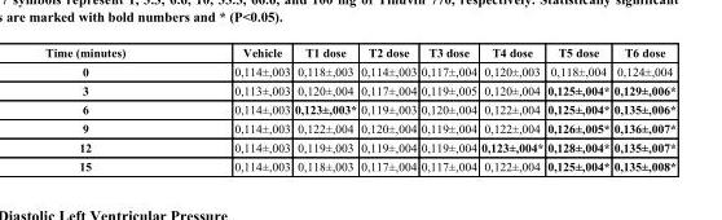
<table><thead><tr><td>Time (minutes)</td><td>Vehicle</td><td>T1 dose</td><td>T2 dose</td><td>T3 dose</td><td>T4 dose</td><td>T5 dose</td><td>T6 dose</td></tr></thead><tbody><tr><td>0</td><td>0,114±,003</td><td>0,118±,003</td><td>0,114±,003</td><td>0,117±,004</td><td>0,120±,003</td><td>0,118±,004</td><td>0,124±,004</td></tr><tr><td>3</td><td>0,113±,003</td><td>0,120±,004</td><td>0,117±,004</td><td>0,119±,005</td><td>0,120±,004</td><td>0,125±,004*</td><td>0,129±,006*</td></tr><tr><td>6</td><td>0,114±,003</td><td>0,123±,003*</td><td>0,119±,003</td><td>0,120±,004</td><td>0,122±,004</td><td>0,125±,004*</td><td>0,135±,006*</td></tr><tr><td>9</td><td>0,114±,003</td><td>0,122±,004</td><td>0,120±,004</td><td>0,119±,004</td><td>0,122±,004</td><td>0,126±,005*</td><td>0,136±,007*</td></tr><tr><td>12</td><td>0,114±,003</td><td>0,119±,003</td><td>0,119±,004</td><td>0,119±,004</td><td>0,123±,004*</td><td>0,128±,004*</td><td>0,135±,007*</td></tr><tr><td>15</td><td>0,114±,003</td><td>0,118±,003</td><td>0,117±,004</td><td>0,117±,004</td><td>0,122±,004</td><td>0,125±,004*</td><td>0,135±,008*</td></tr></tbody></table>